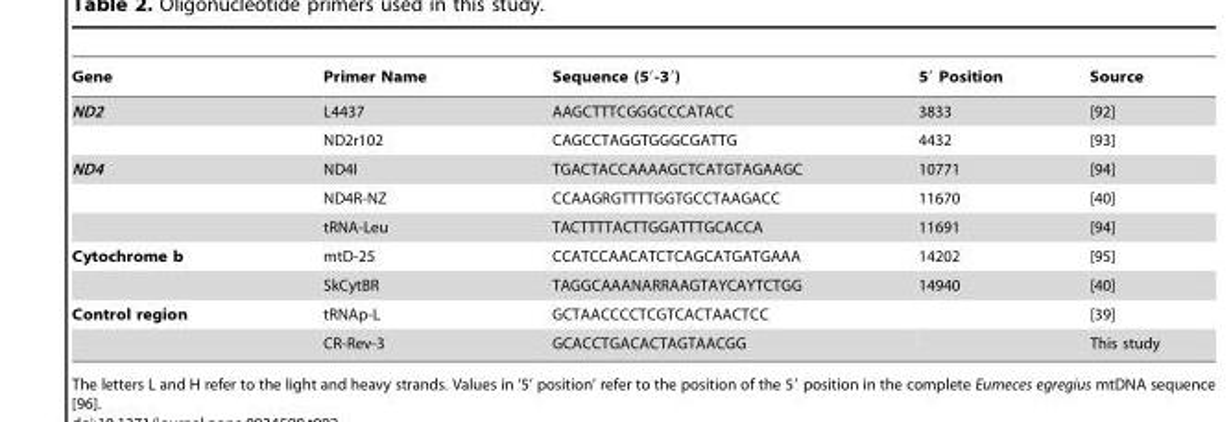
<table><thead><tr><td>Gene</td><td>Primer Name</td><td>Sequence (5′-3′)</td><td>5′ Position</td><td>Source</td></tr></thead><tbody><tr><td rowspan="2">ND2</td><td>L4437</td><td>AAGCTTTCGGGCCCATACC</td><td>3833</td><td>[92]</td></tr><tr><td>ND2r102</td><td>CAGCCTAGGTGGGCGATTG</td><td>4432</td><td>[93]</td></tr><tr><td rowspan="3">ND4</td><td>ND4I</td><td>TGACTACCAAAAGCTCATGTAGAAGC</td><td>10771</td><td>[94]</td></tr><tr><td>ND4R-NZ</td><td>CCAAGRGTTTTGGTGCCTAAGACC</td><td>11670</td><td>[40]</td></tr><tr><td>tRNA-Leu</td><td>TACTTTTACTTGGATTTGCACCA</td><td>11691</td><td>[94]</td></tr><tr><td rowspan="2">Cytochrome b</td><td>mtD-25</td><td>CCATCCAACATCTCAGCATGATGAAA</td><td>14202</td><td>[95]</td></tr><tr><td>SkCytBR</td><td>TAGGCAAANARRAAGTAYCAYTCTGG</td><td>14940</td><td>[40]</td></tr><tr><td rowspan="2">Control region</td><td>tRNAp-L</td><td>GCTAACCCCTCGTCACTAACTCC</td><td></td><td>[39]</td></tr><tr><td>CR-Rev-3</td><td>GCACCTGACACTAGTAACGG</td><td></td><td>This study</td></tr></tbody></table>